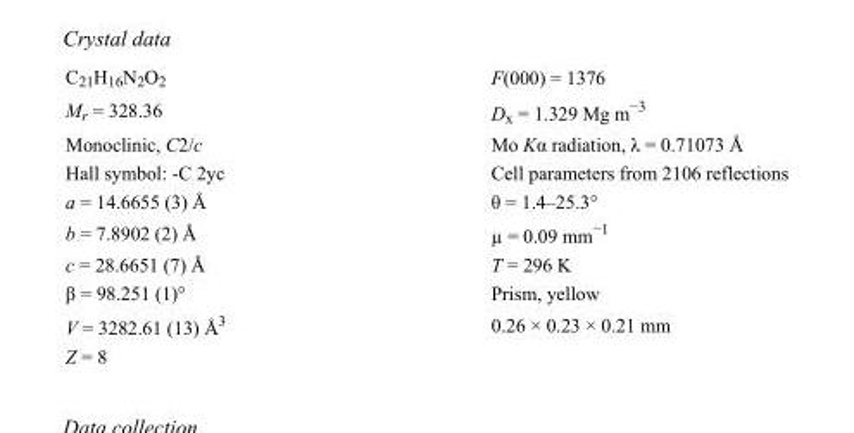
<table><tbody><tr><td>C<sub>21</sub>H<sub>16</sub>N<sub>2</sub>O<sub>2</sub></td><td>F(000) = 1376</td></tr><tr><td>M<sub>r</sub> = 328.36</td><td>D<sub>x</sub> = 1.329 Mg m<sup>−3</sup></td></tr><tr><td>Monoclinic, C2/c</td><td>Mo Kα radiation, λ = 0.71073 Å</td></tr><tr><td>Hall symbol: -C 2yc</td><td>Cell parameters from 2106 reflections</td></tr><tr><td>a = 14.6655 (3) Å</td><td>θ = 1.4–25.3°</td></tr><tr><td>b = 7.8902 (2) Å</td><td>µ = 0.09 mm<sup>−1</sup></td></tr><tr><td>c = 28.6651 (7) Å</td><td>T = 296 K</td></tr><tr><td>β = 98.251 (1)°</td><td>Prism, yellow</td></tr><tr><td>V = 3282.61 (13) Å<sup>3</sup></td><td>0.26 × 0.23 × 0.21 mm</td></tr><tr><td>Z = 8</td><td></td></tr></tbody></table>